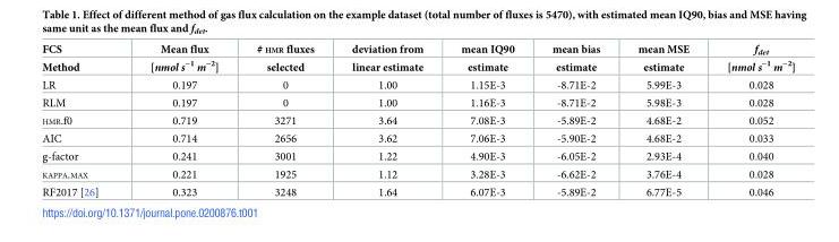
<table><thead><tr><td rowspan="2">FCS Method</td><td rowspan="2">Mean flux [nmol s<sup>−1</sup> m<sup>−2</sup>]</td><td rowspan="2"># HMR fluxes selected</td><td rowspan="2">deviation from linear estimate</td><td rowspan="2">mean IQ90 estimate</td><td rowspan="2">mean bias estimate</td><td rowspan="2">mean MSE estimate</td><td rowspan="2">f<sub>det</sub> [nmol s<sup>−1</sup> m<sup>−2</sup>]</td></tr><tr></tr></thead><tbody><tr><td>LR</td><td>0.197</td><td>0</td><td>1.00</td><td>1.15E-3</td><td>-8.71E-2</td><td>5.99E-3</td><td>0.028</td></tr><tr><td>RLM</td><td>0.197</td><td>0</td><td>1.00</td><td>1.16E-3</td><td>-8.71E-2</td><td>5.98E-3</td><td>0.028</td></tr><tr><td>HMR.f0</td><td>0.719</td><td>3271</td><td>3.64</td><td>7.08E-3</td><td>-5.89E-2</td><td>4.68E-2</td><td>0.052</td></tr><tr><td>AIC</td><td>0.714</td><td>2656</td><td>3.62</td><td>7.06E-3</td><td>-5.90E-2</td><td>4.68E-2</td><td>0.033</td></tr><tr><td>g-factor</td><td>0.241</td><td>3001</td><td>1.22</td><td>4.90E-3</td><td>-6.05E-2</td><td>2.93E-4</td><td>0.040</td></tr><tr><td>KAPPA.MAX</td><td>0.221</td><td>1925</td><td>1.12</td><td>3.28E-3</td><td>-6.62E-2</td><td>3.76E-4</td><td>0.028</td></tr><tr><td>RF2017 [26]</td><td>0.323</td><td>3248</td><td>1.64</td><td>6.07E-3</td><td>-5.89E-2</td><td>6.77E-5</td><td>0.046</td></tr></tbody></table>